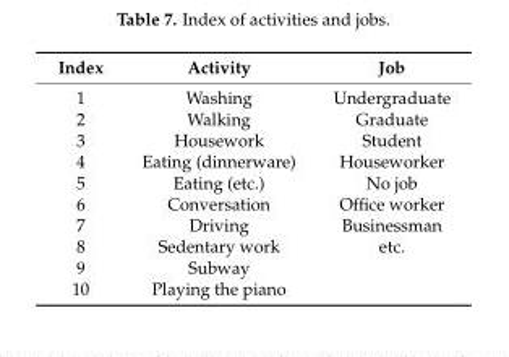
<table><thead><tr><td>Index</td><td>Activity</td><td>Job</td></tr></thead><tbody><tr><td>1</td><td>Washing</td><td>Undergraduate</td></tr><tr><td>2</td><td>Walking</td><td>Graduate</td></tr><tr><td>3</td><td>Housework</td><td>Student</td></tr><tr><td>4</td><td>Eating (dinnerware)</td><td>Houseworker</td></tr><tr><td>5</td><td>Eating (etc.)</td><td>No job</td></tr><tr><td>6</td><td>Conversation</td><td>Office worker</td></tr><tr><td>7</td><td>Driving</td><td>Businessman</td></tr><tr><td>8</td><td>Sedentary work</td><td>etc.</td></tr><tr><td>9</td><td>Subway</td><td rowspan="2"></td></tr><tr><td>10</td><td>Playing the piano</td></tr></tbody></table>